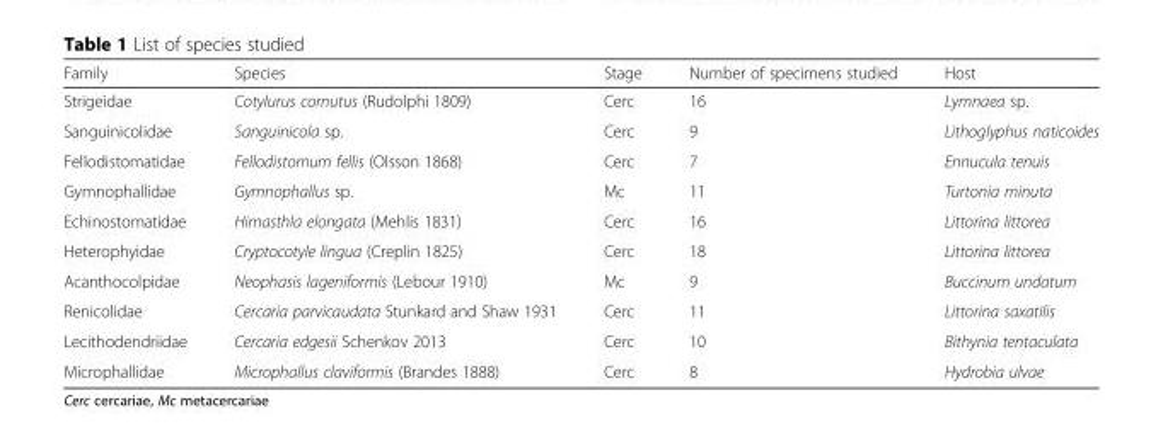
<table><thead><tr><td>Family</td><td>Species</td><td>Stage</td><td>Number of specimens studied</td><td>Host</td></tr></thead><tbody><tr><td>Strigeidae</td><td>Cotylurus cornutus (Rudolphi 1809)</td><td>Cerc</td><td>16</td><td>Lymnaea sp.</td></tr><tr><td>Sanguinicolidae</td><td>Sanguinicola sp.</td><td>Cerc</td><td>9</td><td>Lithoglyphus naticoides</td></tr><tr><td>Fellodistomatidae</td><td>Fellodistomum fellis (Olsson 1868)</td><td>Cerc</td><td>7</td><td>Ennucula tenuis</td></tr><tr><td>Gymnophallidae</td><td>Gymnophallus sp.</td><td>Mc</td><td>11</td><td>Turtonia minuta</td></tr><tr><td>Echinostomatidae</td><td>Himasthla elongata (Mehlis 1831)</td><td>Cerc</td><td>16</td><td>Littorina littorea</td></tr><tr><td>Heterophyidae</td><td>Cryptocotyle lingua (Creplin 1825)</td><td>Cerc</td><td>18</td><td>Littorina littorea</td></tr><tr><td>Acanthocolpidae</td><td>Neophasis lageniformis (Lebour 1910)</td><td>Mc</td><td>9</td><td>Buccinum undatum</td></tr><tr><td>Renicolidae</td><td>Cercaria parvicaudata Stunkard and Shaw 1931</td><td>Cerc</td><td>11</td><td>Littorina saxatilis</td></tr><tr><td>Lecithodendriidae</td><td>Cercaria edgesii Schenkov 2013</td><td>Cerc</td><td>10</td><td>Bithynia tentaculata</td></tr><tr><td>Microphallidae</td><td>Microphallus claviformis (Brandes 1888)</td><td>Cerc</td><td>8</td><td>Hydrobia ulvae</td></tr></tbody></table>